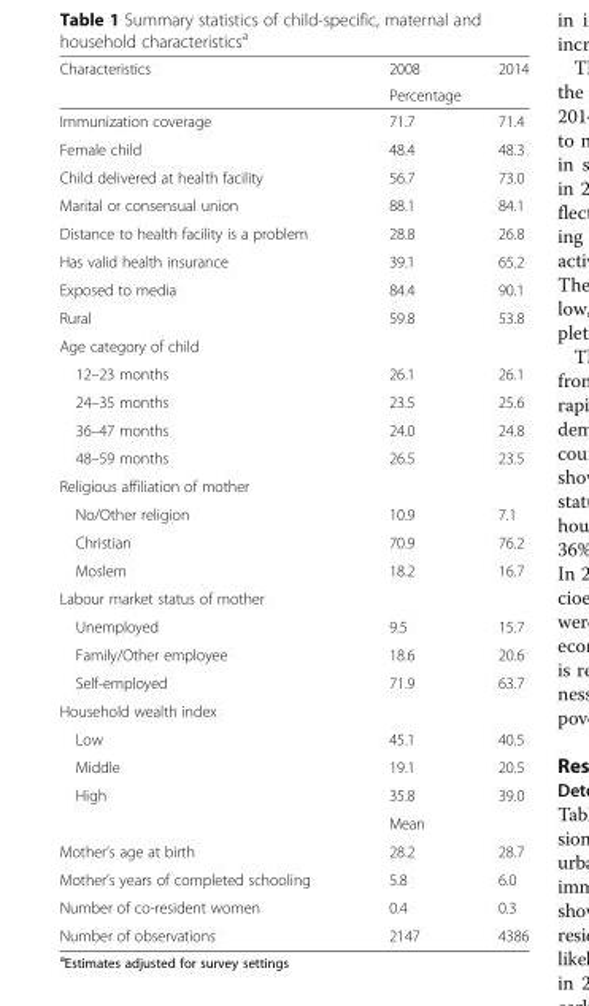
<table><thead><tr><td rowspan="2">Characteristics</td><td>2008</td><td>2014</td></tr><tr><td colspan="2">Percentage</td></tr></thead><tbody><tr><td>Immunization coverage</td><td>71.7</td><td>71.4</td></tr><tr><td>Female child</td><td>48.4</td><td>48.3</td></tr><tr><td>Child delivered at health facility</td><td>56.7</td><td>73.0</td></tr><tr><td>Marital or consensual union</td><td>88.1</td><td>84.1</td></tr><tr><td>Distance to health facility is a problem</td><td>28.8</td><td>26.8</td></tr><tr><td>Has valid health insurance</td><td>39.1</td><td>65.2</td></tr><tr><td>Exposed to media</td><td>84.4</td><td>90.1</td></tr><tr><td>Rural</td><td>59.8</td><td>53.8</td></tr><tr><td colspan="3">Age category of child</td></tr><tr><td>12–23 months</td><td>26.1</td><td>26.1</td></tr><tr><td>24–35 months</td><td>23.5</td><td>25.6</td></tr><tr><td>36–47 months</td><td>24.0</td><td>24.8</td></tr><tr><td>48–59 months</td><td>26.5</td><td>23.5</td></tr><tr><td colspan="3">Religious affiliation of mother</td></tr><tr><td>No/Other religion</td><td>10.9</td><td>7.1</td></tr><tr><td>Christian</td><td>70.9</td><td>76.2</td></tr><tr><td>Moslem</td><td>18.2</td><td>16.7</td></tr><tr><td colspan="3">Labour market status of mother</td></tr><tr><td>Unemployed</td><td>9.5</td><td>15.7</td></tr><tr><td>Family/Other employee</td><td>18.6</td><td>20.6</td></tr><tr><td>Self-employed</td><td>71.9</td><td>63.7</td></tr><tr><td colspan="3">Household wealth index</td></tr><tr><td>Low</td><td>45.1</td><td>40.5</td></tr><tr><td>Middle</td><td>19.1</td><td>20.5</td></tr><tr><td rowspan="2">High</td><td>35.8</td><td>39.0</td></tr><tr><td colspan="2">Mean</td></tr><tr><td>Mother’s age at birth</td><td>28.2</td><td>28.7</td></tr><tr><td>Mother’s years of completed schooling</td><td>5.8</td><td>6.0</td></tr><tr><td>Number of co-resident women</td><td>0.4</td><td>0.3</td></tr><tr><td>Number of observations</td><td>2147</td><td>4386</td></tr></tbody></table>